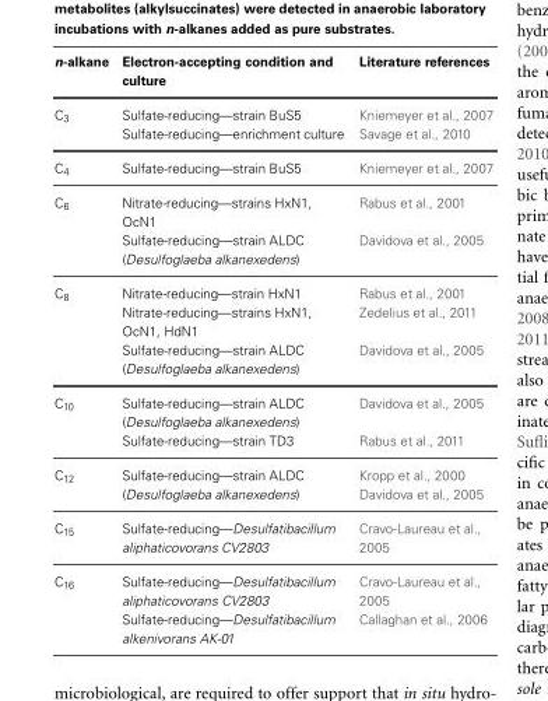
<table><thead><tr><td>n-alkane</td><td>Electron-accepting condition and culture</td><td>Literature references</td></tr></thead><tbody><tr><td rowspan="2">C<sub>3</sub></td><td>Sulfate-reducing—strain BuS5</td><td>Kniemeyer et al., 2007</td></tr><tr><td>Sulfate-reducing—enrichment culture</td><td>Savage et al., 2010</td></tr><tr><td>C<sub>4</sub></td><td>Sulfate-reducing—strain BuS5</td><td>Kniemeyer et al., 2007</td></tr><tr><td rowspan="2">C<sub>6</sub></td><td>Nitrate-reducing—strains HxN1, OcN1</td><td>Rabus et al., 2001</td></tr><tr><td>Sulfate-reducing—strain ALDC (Desulfoglaeba alkanexedens)</td><td>Davidova et al., 2005</td></tr><tr><td rowspan="3">C<sub>8</sub></td><td>Nitrate-reducing—strain HxN1</td><td>Rabus et al., 2001</td></tr><tr><td>Nitrate-reducing—strains HxN1, OcN1, HdN1</td><td>Zedelius et al., 2011</td></tr><tr><td>Sulfate-reducing—strain ALDC (Desulfoglaeba alkanexedens)</td><td>Davidova et al., 2005</td></tr><tr><td rowspan="2">C<sub>10</sub></td><td>Sulfate-reducing—strain ALDC (Desulfoglaeba alkanexedens)</td><td>Davidova et al., 2005</td></tr><tr><td>Sulfate-reducing—strain TD3</td><td>Rabus et al., 2011</td></tr><tr><td rowspan="2">C<sub>12</sub></td><td rowspan="2">Sulfate-reducing—strain ALDC (Desulfoglaeba alkanexedens)</td><td>Kropp et al., 2000</td></tr><tr><td>Davidova et al., 2005</td></tr><tr><td>C<sub>15</sub></td><td>Sulfate-reducing—Desulfatibacillum aliphaticovorans CV2803</td><td>Cravo-Laureau et al., 2005</td></tr><tr><td rowspan="2">C<sub>16</sub></td><td>Sulfate-reducing—Desulfatibacillum aliphaticovorans CV2803</td><td>Cravo-Laureau et al., 2005</td></tr><tr><td>Sulfate-reducing—Desulfatibacillum alkenivorans AK-01</td><td>Callaghan et al., 2006</td></tr></tbody></table>